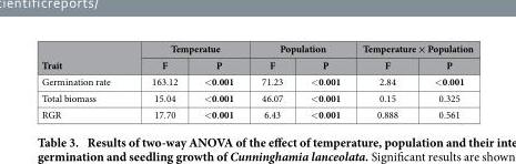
<table><thead><tr><td rowspan="2">Trait</td><td colspan="2">Temperatue</td><td colspan="2">Population</td><td colspan="2">Temperature × Population</td></tr><tr><td>F</td><td>P</td><td>F</td><td>P</td><td>F</td><td>P</td></tr></thead><tbody><tr><td>Germination rate</td><td>163.12</td><td>&lt; 0.001</td><td>71.23</td><td>&lt; 0.001</td><td>2.84</td><td>&lt; 0.001</td></tr><tr><td>Total biomass</td><td>15.04</td><td>&lt; 0.001</td><td>46.07</td><td>&lt; 0.001</td><td>0.15</td><td>0.325</td></tr><tr><td>RGR</td><td>17.70</td><td>&lt; 0.001</td><td>6.43</td><td>&lt; 0.001</td><td>0.888</td><td>0.561</td></tr></tbody></table>